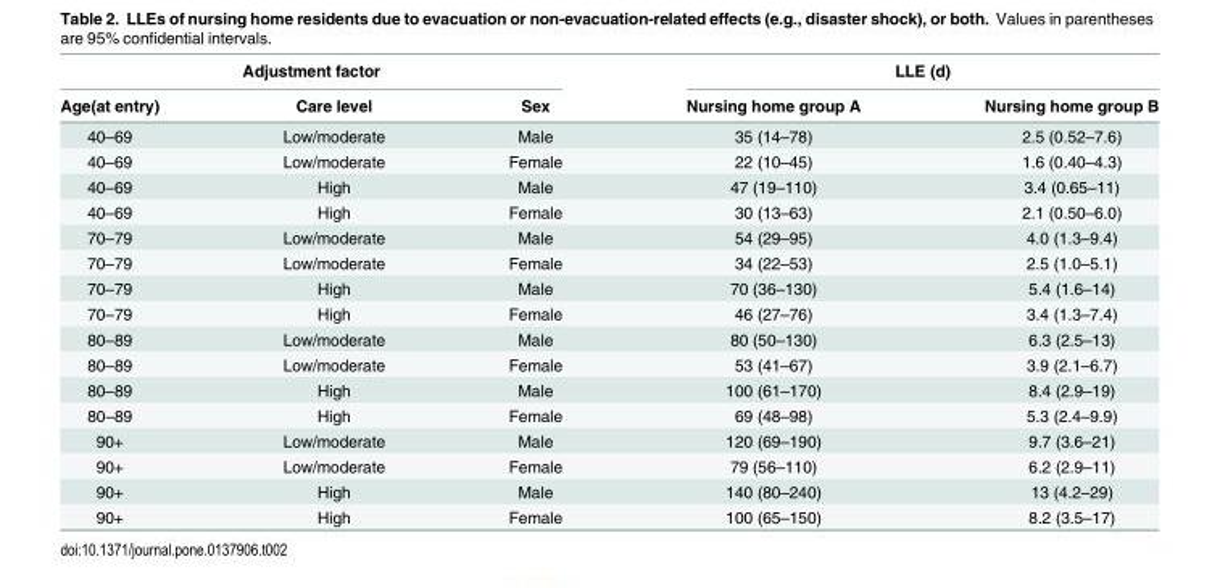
<table><thead><tr><td colspan="3">Adjustment factor</td><td colspan="2">LLE (d)</td></tr><tr><td>Age(at entry)</td><td>Care level</td><td>Sex</td><td>Nursing home group A</td><td>Nursing home group B</td></tr></thead><tbody><tr><td>40–69</td><td>Low/moderate</td><td>Male</td><td>35 (14–78)</td><td>2.5 (0.52–7.6)</td></tr><tr><td>40–69</td><td>Low/moderate</td><td>Female</td><td>22 (10–45)</td><td>1.6 (0.40–4.3)</td></tr><tr><td>40–69</td><td>High</td><td>Male</td><td>47 (19–110)</td><td>3.4 (0.65–11)</td></tr><tr><td>40–69</td><td>High</td><td>Female</td><td>30 (13–63)</td><td>2.1 (0.50–6.0)</td></tr><tr><td>70–79</td><td>Low/moderate</td><td>Male</td><td>54 (29–95)</td><td>4.0 (1.3–9.4)</td></tr><tr><td>70–79</td><td>Low/moderate</td><td>Female</td><td>34 (22–53)</td><td>2.5 (1.0–5.1)</td></tr><tr><td>70–79</td><td>High</td><td>Male</td><td>70 (36–130)</td><td>5.4 (1.6–14)</td></tr><tr><td>70–79</td><td>High</td><td>Female</td><td>46 (27–76)</td><td>3.4 (1.3–7.4)</td></tr><tr><td>80–89</td><td>Low/moderate</td><td>Male</td><td>80 (50–130)</td><td>6.3 (2.5–13)</td></tr><tr><td>80–89</td><td>Low/moderate</td><td>Female</td><td>53 (41–67)</td><td>3.9 (2.1–6.7)</td></tr><tr><td>80–89</td><td>High</td><td>Male</td><td>100 (61–170)</td><td>8.4 (2.9–19)</td></tr><tr><td>80–89</td><td>High</td><td>Female</td><td>69 (48–98)</td><td>5.3 (2.4–9.9)</td></tr><tr><td>90+</td><td>Low/moderate</td><td>Male</td><td>120 (69–190)</td><td>9.7 (3.6–21)</td></tr><tr><td>90+</td><td>Low/moderate</td><td>Female</td><td>79 (56–110)</td><td>6.2 (2.9–11)</td></tr><tr><td>90+</td><td>High</td><td>Male</td><td>140 (80–240)</td><td>13 (4.2–29)</td></tr><tr><td>90+</td><td>High</td><td>Female</td><td>100 (65–150)</td><td>8.2 (3.5–17)</td></tr></tbody></table>